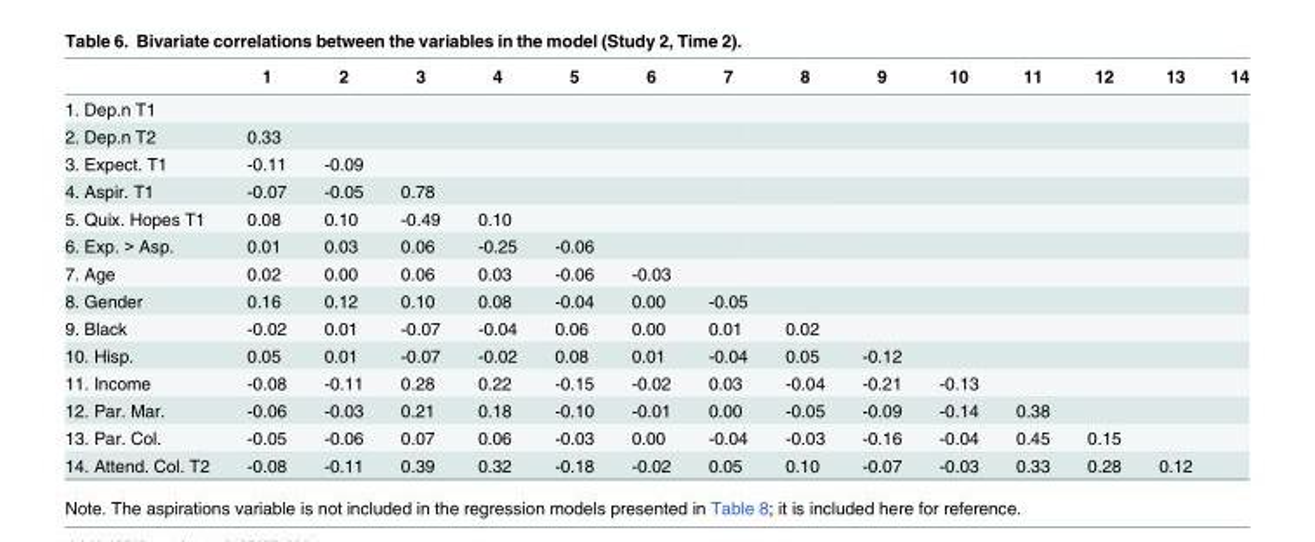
<table><thead><tr><td></td><td>1</td><td>2</td><td>3</td><td>4</td><td>5</td><td>6</td><td>7</td><td>8</td><td>9</td><td>10</td><td>11</td><td>12</td><td>13</td><td>14</td></tr></thead><tbody><tr><td colspan="15">1. Dep.n T1</td></tr><tr><td>2. Dep.n T2</td><td>0.33</td><td></td><td></td><td></td><td></td><td></td><td></td><td></td><td></td><td></td><td></td><td></td><td></td><td></td></tr><tr><td>3. Expect. T1</td><td>-0.11</td><td>-0.09</td><td></td><td></td><td></td><td></td><td></td><td></td><td></td><td></td><td></td><td></td><td></td><td></td></tr><tr><td>4. Aspir. T1</td><td>-0.07</td><td>-0.05</td><td>0.78</td><td></td><td></td><td></td><td></td><td></td><td></td><td></td><td></td><td></td><td></td><td></td></tr><tr><td>5. Quix. Hopes T1</td><td>0.08</td><td>0.10</td><td>-0.49</td><td>0.10</td><td></td><td></td><td></td><td></td><td></td><td></td><td></td><td></td><td></td><td></td></tr><tr><td>6. Exp. &gt; Asp.</td><td>0.01</td><td>0.03</td><td>0.06</td><td>-0.25</td><td>-0.06</td><td></td><td></td><td></td><td></td><td></td><td></td><td></td><td></td><td></td></tr><tr><td>7. Age</td><td>0.02</td><td>0.00</td><td>0.06</td><td>0.03</td><td>-0.06</td><td>-0.03</td><td></td><td></td><td></td><td></td><td></td><td></td><td></td><td></td></tr><tr><td>8. Gender</td><td>0.16</td><td>0.12</td><td>0.10</td><td>0.08</td><td>-0.04</td><td>0.00</td><td>-0.05</td><td></td><td></td><td></td><td></td><td></td><td></td><td></td></tr><tr><td>9. Black</td><td>-0.02</td><td>0.01</td><td>-0.07</td><td>-0.04</td><td>0.06</td><td>0.00</td><td>0.01</td><td>0.02</td><td></td><td></td><td></td><td></td><td></td><td></td></tr><tr><td>10. Hisp.</td><td>0.05</td><td>0.01</td><td>-0.07</td><td>-0.02</td><td>0.08</td><td>0.01</td><td>-0.04</td><td>0.05</td><td>-0.12</td><td></td><td></td><td></td><td></td><td></td></tr><tr><td>11. Income</td><td>-0.08</td><td>-0.11</td><td>0.28</td><td>0.22</td><td>-0.15</td><td>-0.02</td><td>0.03</td><td>-0.04</td><td>-0.21</td><td>-0.13</td><td></td><td></td><td></td><td></td></tr><tr><td>12. Par. Mar.</td><td>-0.06</td><td>-0.03</td><td>0.21</td><td>0.18</td><td>-0.10</td><td>-0.01</td><td>0.00</td><td>-0.05</td><td>-0.09</td><td>-0.14</td><td>0.38</td><td></td><td></td><td></td></tr><tr><td>13. Par. Col.</td><td>-0.05</td><td>-0.06</td><td>0.07</td><td>0.06</td><td>-0.03</td><td>0.00</td><td>-0.04</td><td>-0.03</td><td>-0.16</td><td>-0.04</td><td>0.45</td><td>0.15</td><td></td><td></td></tr><tr><td>14. Attend. Col. T2</td><td>-0.08</td><td>-0.11</td><td>0.39</td><td>0.32</td><td>-0.18</td><td>-0.02</td><td>0.05</td><td>0.10</td><td>-0.07</td><td>-0.03</td><td>0.33</td><td>0.28</td><td>0.12</td><td></td></tr></tbody></table>